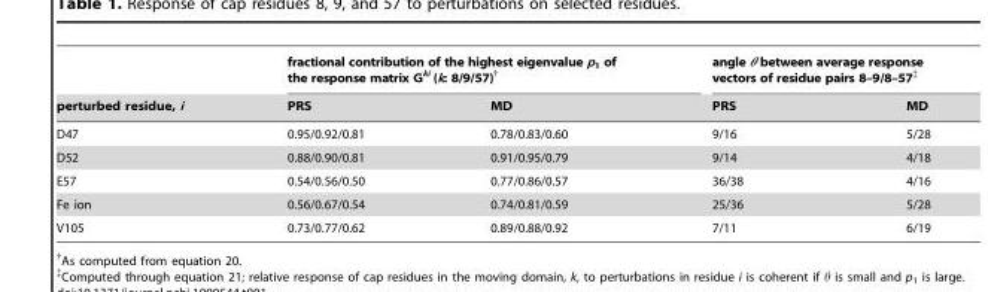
<table><thead><tr><td rowspan="2">perturbed residue, i</td><td colspan="2">fractional contribution of the highest eigenvalue p<sub>1</sub> of the response matrix G<sup>ki</sup> (k: 8/9/57)†</td><td colspan="2">angle θ between average response vectors of residue pairs 8–9/8–57‡</td></tr><tr><td>PRS</td><td>MD</td><td>PRS</td><td>MD</td></tr></thead><tbody><tr><td>D47</td><td>0.95/0.92/0.81</td><td>0.78/0.83/0.60</td><td>9/16</td><td>5/28</td></tr><tr><td>D52</td><td>0.88/0.90/0.81</td><td>0.91/0.95/0.79</td><td>9/14</td><td>4/18</td></tr><tr><td>E57</td><td>0.54/0.56/0.50</td><td>0.77/0.86/0.57</td><td>36/38</td><td>4/16</td></tr><tr><td>Fe ion</td><td>0.56/0.67/0.54</td><td>0.74/0.81/0.59</td><td>25/36</td><td>5/28</td></tr><tr><td>V105</td><td>0.73/0.77/0.62</td><td>0.89/0.88/0.92</td><td>7/11</td><td>6/19</td></tr></tbody></table>